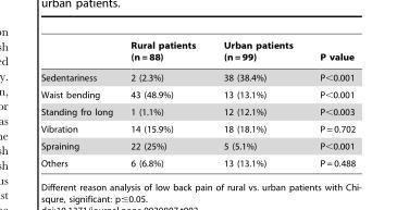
<table><thead><tr><td></td><td>Rural patients (n = 88)</td><td>Urban patients (n = 99)</td><td>P value</td></tr></thead><tbody><tr><td>Sedentariness</td><td>2 (2.3%)</td><td>38 (38.4%)</td><td>P&lt;0.001</td></tr><tr><td>Waist bending</td><td>43 (48.9%)</td><td>13 (13.1%)</td><td>P&lt;0.001</td></tr><tr><td>Standing fro long</td><td>1 (1.1%)</td><td>12 (12.1%)</td><td>P&lt;0.003</td></tr><tr><td>Vibration</td><td>14 (15.9%)</td><td>18 (18.1%)</td><td>P = 0.702</td></tr><tr><td>Spraining</td><td>22 (25%)</td><td>5 (5.1%)</td><td>P&lt;0.001</td></tr><tr><td>Others</td><td>6 (6.8%)</td><td>13 (13.1%)</td><td>P = 0.488</td></tr></tbody></table>